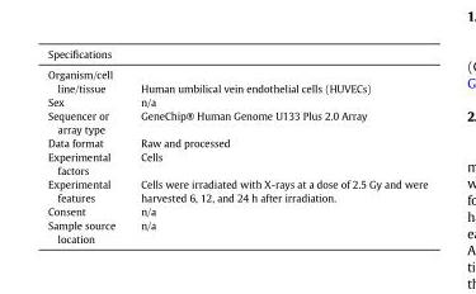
<table><thead><tr><td colspan="2">Specifications</td></tr><tr><td>Organism/cell line/tissue</td><td>Human umbilical vein endothelial cells (HUVECs)</td></tr></thead><tbody><tr><td>Sex</td><td>n/a</td></tr><tr><td>Sequencer or array type</td><td>GeneChip® Human Genome U133 Plus 2.0 Array</td></tr><tr><td>Data format</td><td>Raw and processed</td></tr><tr><td>Experimental factors</td><td>Cells</td></tr><tr><td>Experimental features</td><td>Cells were irradiated with X-rays at a dose of 2.5 Gy and were harvested 6, 12, and 24 h after irradiation.</td></tr><tr><td>Consent</td><td>n/a</td></tr><tr><td>Sample source location</td><td>n/a</td></tr></tbody></table>